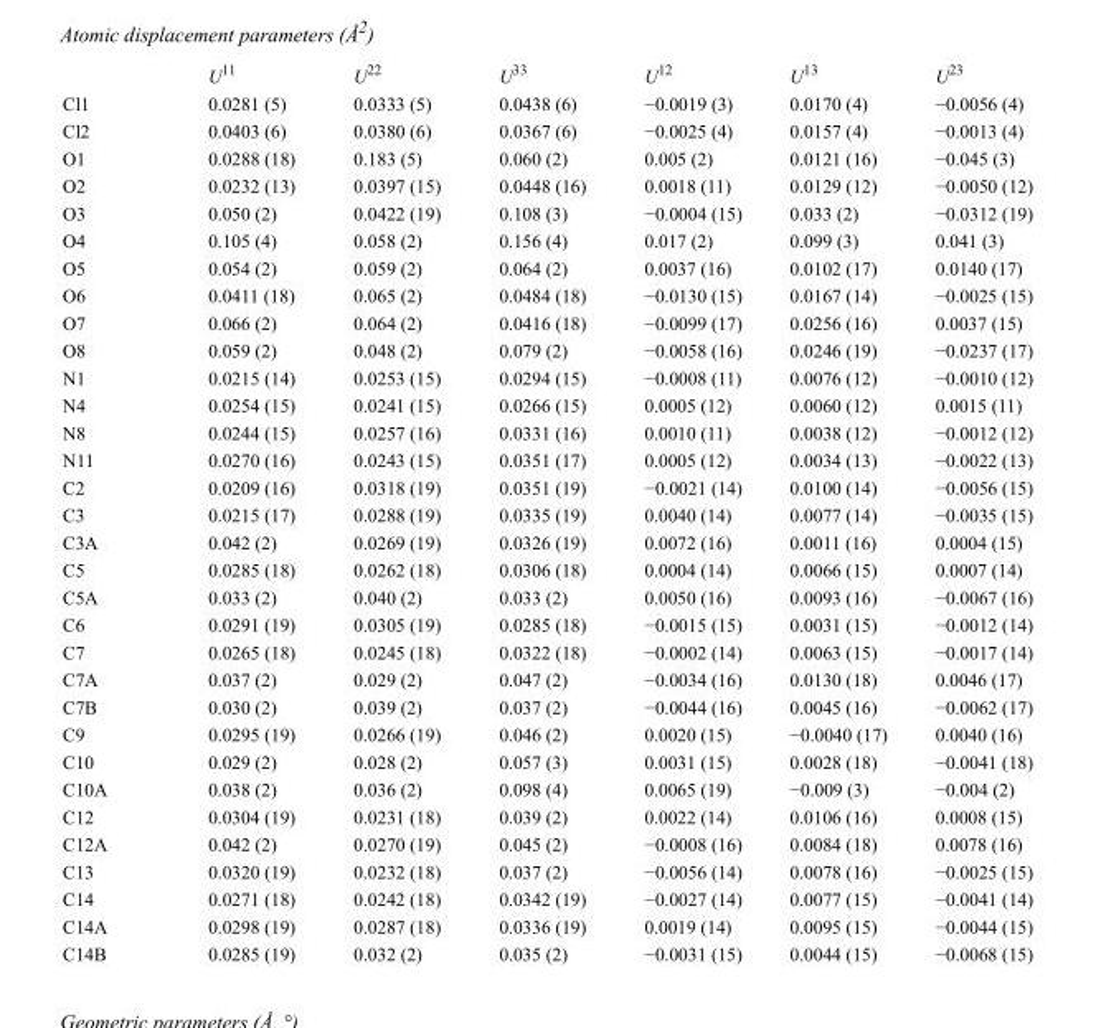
<table><thead><tr><td></td><td>U<sup>11</sup></td><td>U<sup>22</sup></td><td>U<sup>33</sup></td><td>U<sup>12</sup></td><td>U<sup>13</sup></td><td>U<sup>23</sup></td></tr></thead><tbody><tr><td>Cl1</td><td>0.0281 (5)</td><td>0.0333 (5)</td><td>0.0438 (6)</td><td>−0.0019 (3)</td><td>0.0170 (4)</td><td>−0.0056 (4)</td></tr><tr><td>Cl2</td><td>0.0403 (6)</td><td>0.0380 (6)</td><td>0.0367 (6)</td><td>−0.0025 (4)</td><td>0.0157 (4)</td><td>−0.0013 (4)</td></tr><tr><td>O1</td><td>0.0288 (18)</td><td>0.183 (5)</td><td>0.060 (2)</td><td>0.005 (2)</td><td>0.0121 (16)</td><td>−0.045 (3)</td></tr><tr><td>O2</td><td>0.0232 (13)</td><td>0.0397 (15)</td><td>0.0448 (16)</td><td>0.0018 (11)</td><td>0.0129 (12)</td><td>−0.0050 (12)</td></tr><tr><td>O3</td><td>0.050 (2)</td><td>0.0422 (19)</td><td>0.108 (3)</td><td>−0.0004 (15)</td><td>0.033 (2)</td><td>−0.0312 (19)</td></tr><tr><td>O4</td><td>0.105 (4)</td><td>0.058 (2)</td><td>0.156 (4)</td><td>0.017 (2)</td><td>0.099 (3)</td><td>0.041 (3)</td></tr><tr><td>O5</td><td>0.054 (2)</td><td>0.059 (2)</td><td>0.064 (2)</td><td>0.0037 (16)</td><td>0.0102 (17)</td><td>0.0140 (17)</td></tr><tr><td>O6</td><td>0.0411 (18)</td><td>0.065 (2)</td><td>0.0484 (18)</td><td>−0.0130 (15)</td><td>0.0167 (14)</td><td>−0.0025 (15)</td></tr><tr><td>O7</td><td>0.066 (2)</td><td>0.064 (2)</td><td>0.0416 (18)</td><td>−0.0099 (17)</td><td>0.0256 (16)</td><td>0.0037 (15)</td></tr><tr><td>O8</td><td>0.059 (2)</td><td>0.048 (2)</td><td>0.079 (2)</td><td>−0.0058 (16)</td><td>0.0246 (19)</td><td>−0.0237 (17)</td></tr><tr><td>N1</td><td>0.0215 (14)</td><td>0.0253 (15)</td><td>0.0294 (15)</td><td>−0.0008 (11)</td><td>0.0076 (12)</td><td>−0.0010 (12)</td></tr><tr><td>N4</td><td>0.0254 (15)</td><td>0.0241 (15)</td><td>0.0266 (15)</td><td>0.0005 (12)</td><td>0.0060 (12)</td><td>0.0015 (11)</td></tr><tr><td>N8</td><td>0.0244 (15)</td><td>0.0257 (16)</td><td>0.0331 (16)</td><td>0.0010 (11)</td><td>0.0038 (12)</td><td>−0.0012 (12)</td></tr><tr><td>N11</td><td>0.0270 (16)</td><td>0.0243 (15)</td><td>0.0351 (17)</td><td>0.0005 (12)</td><td>0.0034 (13)</td><td>−0.0022 (13)</td></tr><tr><td>C2</td><td>0.0209 (16)</td><td>0.0318 (19)</td><td>0.0351 (19)</td><td>−0.0021 (14)</td><td>0.0100 (14)</td><td>−0.0056 (15)</td></tr><tr><td>C3</td><td>0.0215 (17)</td><td>0.0288 (19)</td><td>0.0335 (19)</td><td>0.0040 (14)</td><td>0.0077 (14)</td><td>−0.0035 (15)</td></tr><tr><td>C3A</td><td>0.042 (2)</td><td>0.0269 (19)</td><td>0.0326 (19)</td><td>0.0072 (16)</td><td>0.0011 (16)</td><td>0.0004 (15)</td></tr><tr><td>C5</td><td>0.0285 (18)</td><td>0.0262 (18)</td><td>0.0306 (18)</td><td>0.0004 (14)</td><td>0.0066 (15)</td><td>0.0007 (14)</td></tr><tr><td>C5A</td><td>0.033 (2)</td><td>0.040 (2)</td><td>0.033 (2)</td><td>0.0050 (16)</td><td>0.0093 (16)</td><td>−0.0067 (16)</td></tr><tr><td>C6</td><td>0.0291 (19)</td><td>0.0305 (19)</td><td>0.0285 (18)</td><td>−0.0015 (15)</td><td>0.0031 (15)</td><td>−0.0012 (14)</td></tr><tr><td>C7</td><td>0.0265 (18)</td><td>0.0245 (18)</td><td>0.0322 (18)</td><td>−0.0002 (14)</td><td>0.0063 (15)</td><td>−0.0017 (14)</td></tr><tr><td>C7A</td><td>0.037 (2)</td><td>0.029 (2)</td><td>0.047 (2)</td><td>−0.0034 (16)</td><td>0.0130 (18)</td><td>0.0046 (17)</td></tr><tr><td>C7B</td><td>0.030 (2)</td><td>0.039 (2)</td><td>0.037 (2)</td><td>−0.0044 (16)</td><td>0.0045 (16)</td><td>−0.0062 (17)</td></tr><tr><td>C9</td><td>0.0295 (19)</td><td>0.0266 (19)</td><td>0.046 (2)</td><td>0.0020 (15)</td><td>−0.0040 (17)</td><td>0.0040 (16)</td></tr><tr><td>C10</td><td>0.029 (2)</td><td>0.028 (2)</td><td>0.057 (3)</td><td>0.0031 (15)</td><td>0.0028 (18)</td><td>−0.0041 (18)</td></tr><tr><td>C10A</td><td>0.038 (2)</td><td>0.036 (2)</td><td>0.098 (4)</td><td>0.0065 (19)</td><td>−0.009 (3)</td><td>−0.004 (2)</td></tr><tr><td>C12</td><td>0.0304 (19)</td><td>0.0231 (18)</td><td>0.039 (2)</td><td>0.0022 (14)</td><td>0.0106 (16)</td><td>0.0008 (15)</td></tr><tr><td>C12A</td><td>0.042 (2)</td><td>0.0270 (19)</td><td>0.045 (2)</td><td>−0.0008 (16)</td><td>0.0084 (18)</td><td>0.0078 (16)</td></tr><tr><td>C13</td><td>0.0320 (19)</td><td>0.0232 (18)</td><td>0.037 (2)</td><td>−0.0056 (14)</td><td>0.0078 (16)</td><td>−0.0025 (15)</td></tr><tr><td>C14</td><td>0.0271 (18)</td><td>0.0242 (18)</td><td>0.0342 (19)</td><td>−0.0027 (14)</td><td>0.0077 (15)</td><td>−0.0041 (14)</td></tr><tr><td>C14A</td><td>0.0298 (19)</td><td>0.0287 (18)</td><td>0.0336 (19)</td><td>0.0019 (14)</td><td>0.0095 (15)</td><td>−0.0044 (15)</td></tr><tr><td>C14B</td><td>0.0285 (19)</td><td>0.032 (2)</td><td>0.035 (2)</td><td>−0.0031 (15)</td><td>0.0044 (15)</td><td>−0.0068 (15)</td></tr></tbody></table>